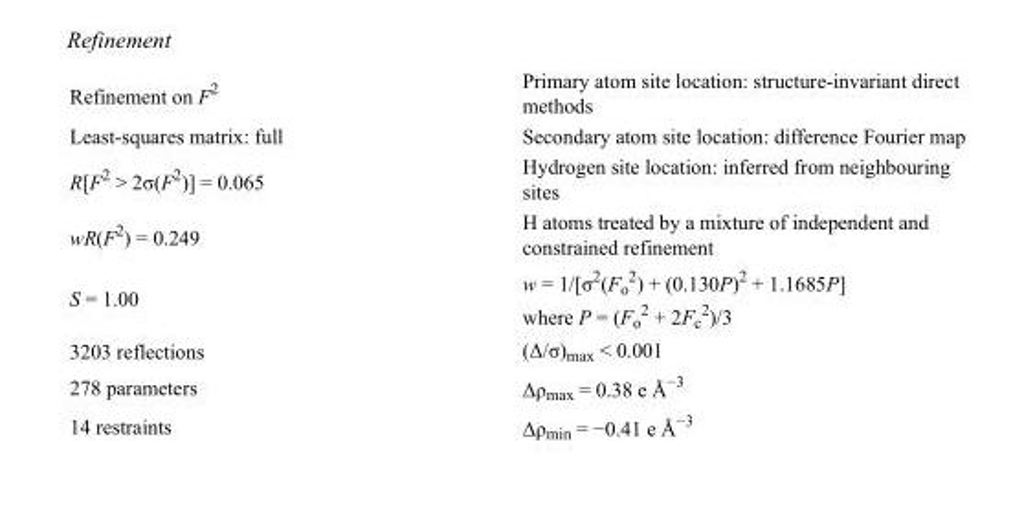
<table><tbody><tr><td>Refinement on F<sup>2</sup></td><td>Primary atom site location: structure-invariant direct methods</td></tr><tr><td>Least-squares matrix: full</td><td>Secondary atom site location: difference Fourier map</td></tr><tr><td>R[F<sup>2</sup> &gt; 2σ(F<sup>2</sup>)] = 0.065</td><td>Hydrogen site location: inferred from neighbouring sites</td></tr><tr><td>wR(F<sup>2</sup>) = 0.249</td><td>H atoms treated by a mixture of independent and constrained refinement</td></tr><tr><td>S = 1.00</td><td>w = 1/[σ<sup>2</sup>(F<sub>o</sub> <sup>2</sup>) + (0.130P)<sup>2</sup> + 1.1685P] where P = (F<sub>o</sub> <sup>2</sup> + 2F<sub>c</sub> <sup>2</sup>)/3</td></tr><tr><td>3203 reflections</td><td>(Δ/σ)<sub>max</sub> &lt; 0.001</td></tr><tr><td>278 parameters</td><td>Δρ<sub>max</sub> = 0.38 e Å<sup>−3</sup></td></tr><tr><td>14 restraints</td><td>Δρ<sub>min</sub> = −0.41 e Å<sup>−3</sup></td></tr></tbody></table>